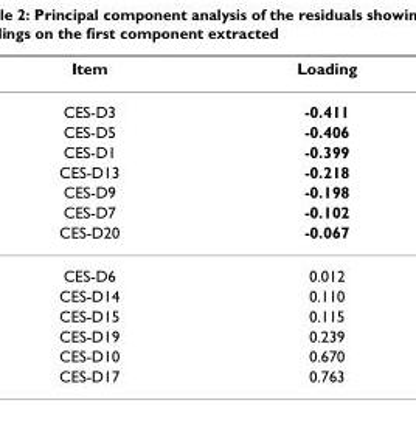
<table><thead><tr><td>Item</td><td>Loading</td></tr></thead><tbody><tr><td>CES-D3</td><td>-0.411</td></tr><tr><td>CES-D5</td><td>-0.406</td></tr><tr><td>CES-D1</td><td>-0.399</td></tr><tr><td>CES-D13</td><td>-0.218</td></tr><tr><td>CES-D9</td><td>-0.198</td></tr><tr><td>CES-D7</td><td>-0.102</td></tr><tr><td>CES-D20</td><td>-0.067</td></tr><tr><td>CES-D6</td><td>0.012</td></tr><tr><td>CES-D14</td><td>0.110</td></tr><tr><td>CES-D15</td><td>0.115</td></tr><tr><td>CES-D19</td><td>0.239</td></tr><tr><td>CES-D10</td><td>0.670</td></tr><tr><td>CES-D17</td><td>0.763</td></tr></tbody></table>